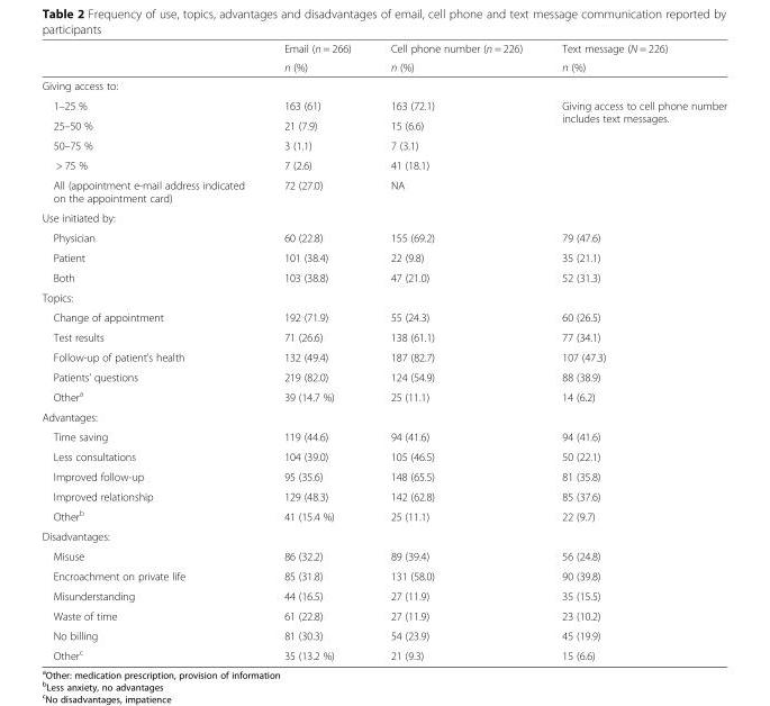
<table><thead><tr><td rowspan="2"></td><td rowspan="2">Email (n = 266) n (%)</td><td rowspan="2">Cell phone number (n = 226) n (%)</td><td rowspan="2">Text message (N = 226) n (%)</td></tr><tr></tr></thead><tbody><tr><td colspan="4">Giving access to:</td></tr><tr><td>1–25 %</td><td>163 (61)</td><td>163 (72.1)</td><td rowspan="5">Giving access to cell phone number includes text messages.</td></tr><tr><td>25–50 %</td><td>21 (7.9)</td><td>15 (6.6)</td></tr><tr><td>50–75 %</td><td>3 (1.1)</td><td>7 (3.1)</td></tr><tr><td>&gt; 75 %</td><td>7 (2.6)</td><td>41 (18.1)</td></tr><tr><td>All (appointment e-mail address indicated on the appointment card)</td><td>72 (27.0)</td><td>NA</td></tr><tr><td colspan="4">Use initiated by:</td></tr><tr><td>Physician</td><td>60 (22.8)</td><td>155 (69.2)</td><td>79 (47.6)</td></tr><tr><td>Patient</td><td>101 (38.4)</td><td>22 (9.8)</td><td>35 (21.1)</td></tr><tr><td>Both</td><td>103 (38.8)</td><td>47 (21.0)</td><td>52 (31.3)</td></tr><tr><td colspan="4">Topics:</td></tr><tr><td>Change of appointment</td><td>192 (71.9)</td><td>55 (24.3)</td><td>60 (26.5)</td></tr><tr><td>Test results</td><td>71 (26.6)</td><td>138 (61.1)</td><td>77 (34.1)</td></tr><tr><td>Follow-up of patient’s health</td><td>132 (49.4)</td><td>187 (82.7)</td><td>107 (47.3)</td></tr><tr><td>Patients’ questions</td><td>219 (82.0)</td><td>124 (54.9)</td><td>88 (38.9)</td></tr><tr><td>Other<sup>a</sup></td><td>39 (14.7 %)</td><td>25 (11.1)</td><td>14 (6.2)</td></tr><tr><td colspan="4">Advantages:</td></tr><tr><td>Time saving</td><td>119 (44.6)</td><td>94 (41.6)</td><td>94 (41.6)</td></tr><tr><td>Less consultations</td><td>104 (39.0)</td><td>105 (46.5)</td><td>50 (22.1)</td></tr><tr><td>Improved follow-up</td><td>95 (35.6)</td><td>148 (65.5)</td><td>81 (35.8)</td></tr><tr><td>Improved relationship</td><td>129 (48.3)</td><td>142 (62.8)</td><td>85 (37.6)</td></tr><tr><td>Other<sup>b</sup></td><td>41 (15.4 %)</td><td>25 (11.1)</td><td>22 (9.7)</td></tr><tr><td colspan="4">Disadvantages:</td></tr><tr><td>Misuse</td><td>86 (32.2)</td><td>89 (39.4)</td><td>56 (24.8)</td></tr><tr><td>Encroachment on private life</td><td>85 (31.8)</td><td>131 (58.0)</td><td>90 (39.8)</td></tr><tr><td>Misunderstanding</td><td>44 (16.5)</td><td>27 (11.9)</td><td>35 (15.5)</td></tr><tr><td>Waste of time</td><td>61 (22.8)</td><td>27 (11.9)</td><td>23 (10.2)</td></tr><tr><td>No billing</td><td>81 (30.3)</td><td>54 (23.9)</td><td>45 (19.9)</td></tr><tr><td>Other<sup>c</sup></td><td>35 (13.2 %)</td><td>21 (9.3)</td><td>15 (6.6)</td></tr></tbody></table>